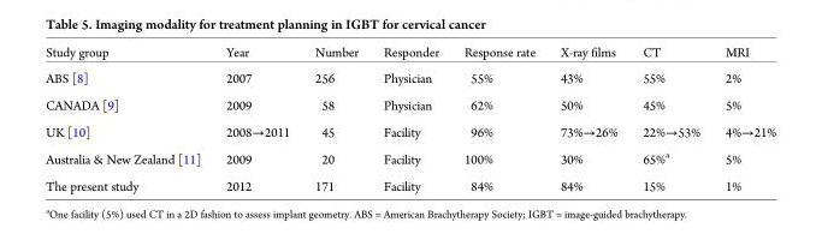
<table><thead><tr><td>Study group</td><td>Year</td><td>Number</td><td>Responder</td><td>Response rate</td><td>X-ray films</td><td>CT</td><td>MRI</td></tr></thead><tbody><tr><td>ABS [8]</td><td>2007</td><td>256</td><td>Physician</td><td>55%</td><td>43%</td><td>55%</td><td>2%</td></tr><tr><td>CANADA [9]</td><td>2009</td><td>58</td><td>Physician</td><td>62%</td><td>50%</td><td>45%</td><td>5%</td></tr><tr><td>UK [10]</td><td>2008→2011</td><td>45</td><td>Facility</td><td>96%</td><td>73%→26%</td><td>22%→53%</td><td>4%→21%</td></tr><tr><td>Australia &amp; New Zealand [11]</td><td>2009</td><td>20</td><td>Facility</td><td>100%</td><td>30%</td><td>65%<sup>a</sup></td><td>5%</td></tr><tr><td>The present study</td><td>2012</td><td>171</td><td>Facility</td><td>84%</td><td>84%</td><td>15%</td><td>1%</td></tr></tbody></table>